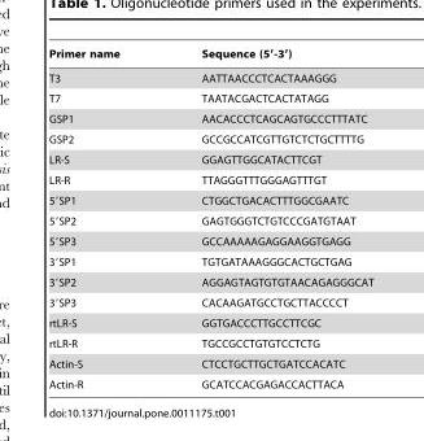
<table><thead><tr><td>Primer name</td><td>Sequence (5′-3′)</td></tr></thead><tbody><tr><td>T3</td><td>AATTAACCCTCACTAAAGGG</td></tr><tr><td>T7</td><td>TAATACGACTCACTATAGG</td></tr><tr><td>GSP1</td><td>AACACCCTCAGCAGTGCCCTTTATC</td></tr><tr><td>GSP2</td><td>GCCGCCATCGTTGTCTCTGCTTTTG</td></tr><tr><td>LR-S</td><td>GGAGTTGGCATACTTCGT</td></tr><tr><td>LR-R</td><td>TTAGGGTTTGGGAGTTTGT</td></tr><tr><td>5′SP1</td><td>CTGGCTGACACTTTGGCGAATC</td></tr><tr><td>5′SP2</td><td>GAGTGGGTCTGTCCCGATGTAAT</td></tr><tr><td>5′SP3</td><td>GCCAAAAAGAGGAAGGTGAGG</td></tr><tr><td>3′SP1</td><td>TGTGATAAAGGGCACTGCTGAG</td></tr><tr><td>3′SP2</td><td>AGGAGTAGTGTGTAACAGAGGGCAT</td></tr><tr><td>3′SP3</td><td>CACAAGATGCCTGCTTACCCCT</td></tr><tr><td>rtLR-S</td><td>GGTGACCCTTGCCTTCGC</td></tr><tr><td>rtLR-R</td><td>TGCCGCCTGTGTCCTCTG</td></tr><tr><td>Actin-S</td><td>CTCCTGCTTGCTGATCCACATC</td></tr><tr><td>Actin-R</td><td>GCATCCACGAGACCACTTACA</td></tr></tbody></table>